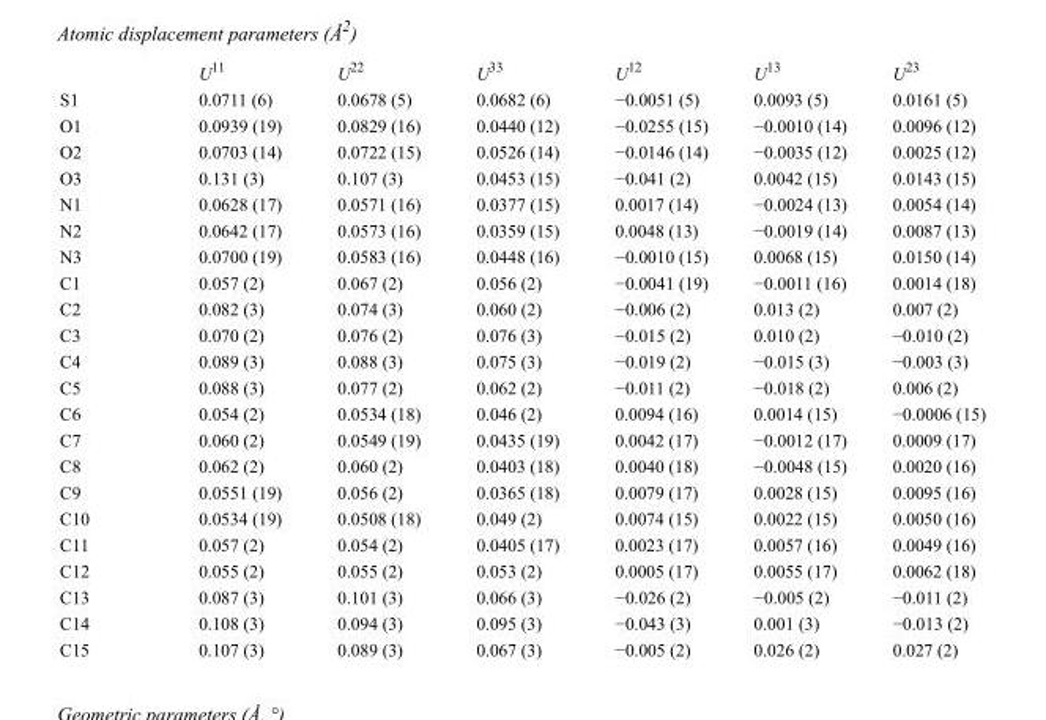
<table><thead><tr><td></td><td>U<sup>11</sup></td><td>U<sup>22</sup></td><td>U<sup>33</sup></td><td>U<sup>12</sup></td><td>U<sup>13</sup></td><td>U<sup>23</sup></td></tr></thead><tbody><tr><td>S1</td><td>0.0711 (6)</td><td>0.0678 (5)</td><td>0.0682 (6)</td><td>−0.0051 (5)</td><td>0.0093 (5)</td><td>0.0161 (5)</td></tr><tr><td>O1</td><td>0.0939 (19)</td><td>0.0829 (16)</td><td>0.0440 (12)</td><td>−0.0255 (15)</td><td>−0.0010 (14)</td><td>0.0096 (12)</td></tr><tr><td>O2</td><td>0.0703 (14)</td><td>0.0722 (15)</td><td>0.0526 (14)</td><td>−0.0146 (14)</td><td>−0.0035 (12)</td><td>0.0025 (12)</td></tr><tr><td>O3</td><td>0.131 (3)</td><td>0.107 (3)</td><td>0.0453 (15)</td><td>−0.041 (2)</td><td>0.0042 (15)</td><td>0.0143 (15)</td></tr><tr><td>N1</td><td>0.0628 (17)</td><td>0.0571 (16)</td><td>0.0377 (15)</td><td>0.0017 (14)</td><td>−0.0024 (13)</td><td>0.0054 (14)</td></tr><tr><td>N2</td><td>0.0642 (17)</td><td>0.0573 (16)</td><td>0.0359 (15)</td><td>0.0048 (13)</td><td>−0.0019 (14)</td><td>0.0087 (13)</td></tr><tr><td>N3</td><td>0.0700 (19)</td><td>0.0583 (16)</td><td>0.0448 (16)</td><td>−0.0010 (15)</td><td>0.0068 (15)</td><td>0.0150 (14)</td></tr><tr><td>C1</td><td>0.057 (2)</td><td>0.067 (2)</td><td>0.056 (2)</td><td>−0.0041 (19)</td><td>−0.0011 (16)</td><td>0.0014 (18)</td></tr><tr><td>C2</td><td>0.082 (3)</td><td>0.074 (3)</td><td>0.060 (2)</td><td>−0.006 (2)</td><td>0.013 (2)</td><td>0.007 (2)</td></tr><tr><td>C3</td><td>0.070 (2)</td><td>0.076 (2)</td><td>0.076 (3)</td><td>−0.015 (2)</td><td>0.010 (2)</td><td>−0.010 (2)</td></tr><tr><td>C4</td><td>0.089 (3)</td><td>0.088 (3)</td><td>0.075 (3)</td><td>−0.019 (2)</td><td>−0.015 (3)</td><td>−0.003 (3)</td></tr><tr><td>C5</td><td>0.088 (3)</td><td>0.077 (2)</td><td>0.062 (2)</td><td>−0.011 (2)</td><td>−0.018 (2)</td><td>0.006 (2)</td></tr><tr><td>C6</td><td>0.054 (2)</td><td>0.0534 (18)</td><td>0.046 (2)</td><td>0.0094 (16)</td><td>0.0014 (15)</td><td>−0.0006 (15)</td></tr><tr><td>C7</td><td>0.060 (2)</td><td>0.0549 (19)</td><td>0.0435 (19)</td><td>0.0042 (17)</td><td>−0.0012 (17)</td><td>0.0009 (17)</td></tr><tr><td>C8</td><td>0.062 (2)</td><td>0.060 (2)</td><td>0.0403 (18)</td><td>0.0040 (18)</td><td>−0.0048 (15)</td><td>0.0020 (16)</td></tr><tr><td>C9</td><td>0.0551 (19)</td><td>0.056 (2)</td><td>0.0365 (18)</td><td>0.0079 (17)</td><td>0.0028 (15)</td><td>0.0095 (16)</td></tr><tr><td>C10</td><td>0.0534 (19)</td><td>0.0508 (18)</td><td>0.049 (2)</td><td>0.0074 (15)</td><td>0.0022 (15)</td><td>0.0050 (16)</td></tr><tr><td>C11</td><td>0.057 (2)</td><td>0.054 (2)</td><td>0.0405 (17)</td><td>0.0023 (17)</td><td>0.0057 (16)</td><td>0.0049 (16)</td></tr><tr><td>C12</td><td>0.055 (2)</td><td>0.055 (2)</td><td>0.053 (2)</td><td>0.0005 (17)</td><td>0.0055 (17)</td><td>0.0062 (18)</td></tr><tr><td>C13</td><td>0.087 (3)</td><td>0.101 (3)</td><td>0.066 (3)</td><td>−0.026 (2)</td><td>−0.005 (2)</td><td>−0.011 (2)</td></tr><tr><td>C14</td><td>0.108 (3)</td><td>0.094 (3)</td><td>0.095 (3)</td><td>−0.043 (3)</td><td>0.001 (3)</td><td>−0.013 (2)</td></tr><tr><td>C15</td><td>0.107 (3)</td><td>0.089 (3)</td><td>0.067 (3)</td><td>−0.005 (2)</td><td>0.026 (2)</td><td>0.027 (2)</td></tr></tbody></table>